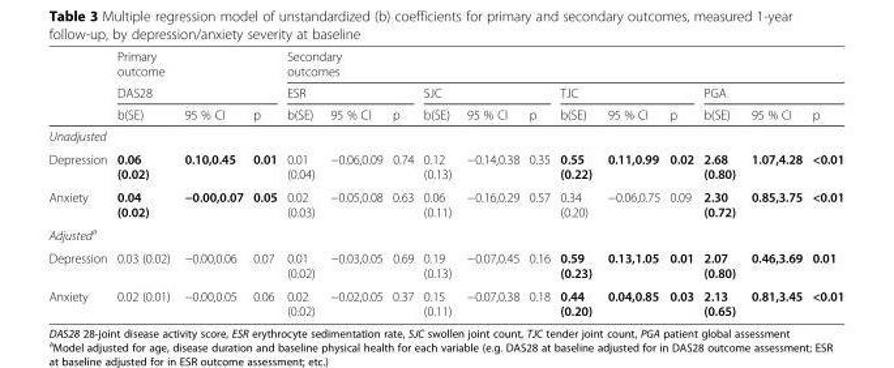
<table><thead><tr><td rowspan="3"></td><td>Primary outcome</td><td></td><td></td><td colspan="12">Secondary outcomes</td></tr><tr><td colspan="3">DAS28</td><td colspan="3">ESR</td><td colspan="3">SJC</td><td colspan="3">TJC</td><td colspan="3">PGA</td></tr><tr><td>b(SE)</td><td>95 % CI</td><td>p</td><td>b(SE)</td><td>95 % CI</td><td>p</td><td>b(SE)</td><td>95 % CI</td><td>p</td><td>b(SE)</td><td>95 % CI</td><td>p</td><td>b(SE)</td><td>95 % CI</td><td>p</td></tr></thead><tbody><tr><td colspan="16">Unadjusted</td></tr><tr><td>Depression</td><td>0.06 (0.02)</td><td>0.10,0.45</td><td>0.01</td><td>0.01 (0.04)</td><td>−0.06,0.09</td><td>0.74</td><td>0.12 (0.13)</td><td>−0.14,0.38</td><td>0.35</td><td>0.55 (0.22)</td><td>0.11,0.99</td><td>0.02</td><td>2.68 (0.80)</td><td>1.07,4.28</td><td>&lt;0.01</td></tr><tr><td>Anxiety</td><td>0.04 (0.02)</td><td>−0.00,0.07</td><td>0.05</td><td>0.02 (0.03)</td><td>−0.05,0.08</td><td>0.63</td><td>0.06 (0.11)</td><td>−0.16,0.29</td><td>0.57</td><td>0.34 (0.20)</td><td>−0.06,0.75</td><td>0.09</td><td>2.30 (0.72)</td><td>0.85,3.75</td><td>&lt;0.01</td></tr><tr><td colspan="16">Adjusted<sup>a</sup></td></tr><tr><td>Depression</td><td>0.03 (0.02)</td><td>−0.00,0.06</td><td>0.07</td><td>0.01 (0.02)</td><td>−0.03,0.05</td><td>0.69</td><td>0.19 (0.13)</td><td>−0.07,0.45</td><td>0.16</td><td>0.59 (0.23)</td><td>0.13,1.05</td><td>0.01</td><td>2.07 (0.80)</td><td>0.46,3.69</td><td>0.01</td></tr><tr><td>Anxiety</td><td>0.02 (0.01)</td><td>−0.00,0.05</td><td>0.06</td><td>0.02 (0.02)</td><td>−0.02,0.05</td><td>0.37</td><td>0.15 (0.11)</td><td>−0.07,0.38</td><td>0.18</td><td>0.44 (0.20)</td><td>0.04,0.85</td><td>0.03</td><td>2.13 (0.65)</td><td>0.81,3.45</td><td>&lt;0.01</td></tr></tbody></table>